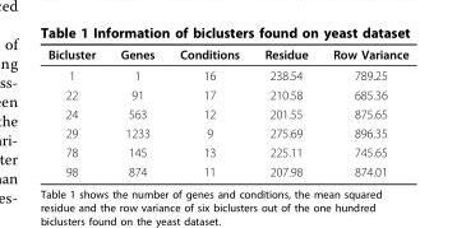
<table><thead><tr><td>Bicluster</td><td>Genes</td><td>Conditions</td><td>Residue</td><td>Row Variance</td></tr></thead><tbody><tr><td>1</td><td>1</td><td>16</td><td>238.54</td><td>789.25</td></tr><tr><td>22</td><td>91</td><td>17</td><td>210.58</td><td>685.36</td></tr><tr><td>24</td><td>563</td><td>12</td><td>201.55</td><td>875.65</td></tr><tr><td>29</td><td>1233</td><td>9</td><td>275.69</td><td>896.35</td></tr><tr><td>78</td><td>145</td><td>13</td><td>225.11</td><td>745.65</td></tr><tr><td>98</td><td>874</td><td>11</td><td>207.98</td><td>874.01</td></tr></tbody></table>